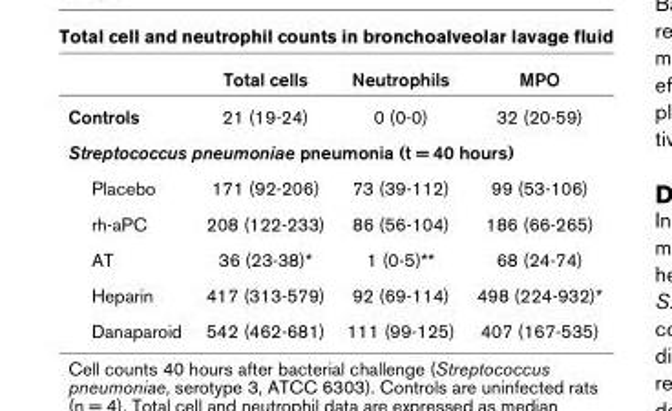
<table><thead><tr><td></td><td>Total cells</td><td>Neutrophils</td><td>MPO</td></tr></thead><tbody><tr><td>Controls</td><td>21 (19-24)</td><td>0 (0-0)</td><td>32 (20-59)</td></tr><tr><td colspan="4">Streptococcus pneumoniae pneumonia (t = 40 hours)</td></tr><tr><td>Placebo</td><td>171 (92-206)</td><td>73 (39-112)</td><td>99 (53-106)</td></tr><tr><td>rh-aPC</td><td>208 (122-233)</td><td>86 (56-104)</td><td>186 (66-265)</td></tr><tr><td>AT</td><td>36 (23-38)*</td><td>1 (0-5)**</td><td>68 (24-74)</td></tr><tr><td>Heparin</td><td>417 (313-579)</td><td>92 (69-114)</td><td>498 (224-932)*</td></tr><tr><td>Danaparoid</td><td>542 (462-681)</td><td>111 (99-125)</td><td>407 (167-535)</td></tr></tbody></table>